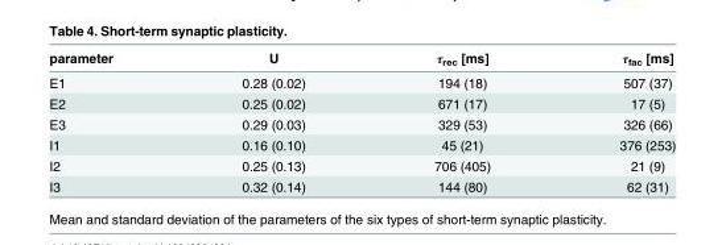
<table><thead><tr><td>parameter</td><td>U</td><td>τ<sub>rec</sub> [ms]</td><td>τ<sub>fac</sub> [ms]</td></tr></thead><tbody><tr><td>E1</td><td>0.28 (0.02)</td><td>194 (18)</td><td>507 (37)</td></tr><tr><td>E2</td><td>0.25 (0.02)</td><td>671 (17)</td><td>17 (5)</td></tr><tr><td>E3</td><td>0.29 (0.03)</td><td>329 (53)</td><td>326 (66)</td></tr><tr><td>I1</td><td>0.16 (0.10)</td><td>45 (21)</td><td>376 (253)</td></tr><tr><td>I2</td><td>0.25 (0.13)</td><td>706 (405)</td><td>21 (9)</td></tr><tr><td>I3</td><td>0.32 (0.14)</td><td>144 (80)</td><td>62 (31)</td></tr></tbody></table>